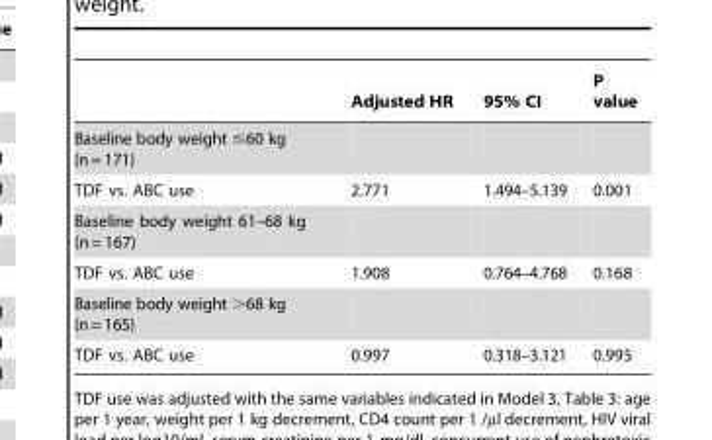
<table><thead><tr><td></td><td>Adjusted HR</td><td>95% CI</td><td>P value</td></tr></thead><tbody><tr><td colspan="4">Baseline body weight ≤60 kg (n = 171)</td></tr><tr><td>TDF vs. ABC use</td><td>2.771</td><td>1.494–5.139</td><td>0.001</td></tr><tr><td colspan="4">Baseline body weight 61–68 kg (n = 167)</td></tr><tr><td>TDF vs. ABC use</td><td>1.908</td><td>0.764–4.768</td><td>0.168</td></tr><tr><td colspan="4">Baseline body weight &gt;68 kg (n = 165)</td></tr><tr><td>TDF vs. ABC use</td><td>0.997</td><td>0.318–3.121</td><td>0.995</td></tr></tbody></table>